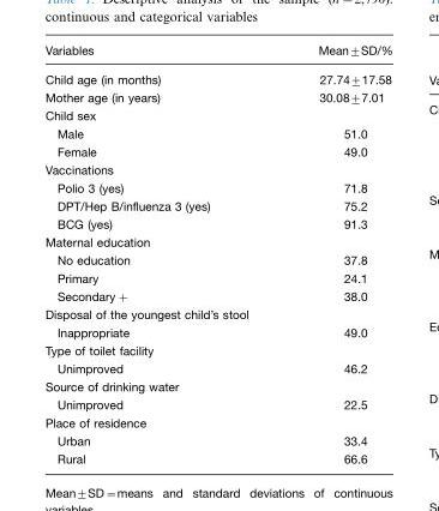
<table><thead><tr><td>Variables</td><td>Mean±SD/%</td></tr></thead><tbody><tr><td>Child age (in months)</td><td>27.74±17.58</td></tr><tr><td>Mother age (in years)</td><td>30.08±7.01</td></tr><tr><td colspan="2">Child sex</td></tr><tr><td>Male</td><td>51.0</td></tr><tr><td>Female</td><td>49.0</td></tr><tr><td colspan="2">Vaccinations</td></tr><tr><td>Polio 3 (yes)</td><td>71.8</td></tr><tr><td>DPT/Hep B/influenza 3 (yes)</td><td>75.2</td></tr><tr><td>BCG (yes)</td><td>91.3</td></tr><tr><td colspan="2">Maternal education</td></tr><tr><td>No education</td><td>37.8</td></tr><tr><td>Primary</td><td>24.1</td></tr><tr><td>Secondary+</td><td>38.0</td></tr><tr><td colspan="2">Disposal of the youngest child’s stool</td></tr><tr><td>Inappropriate</td><td>49.0</td></tr><tr><td colspan="2">Type of toilet facility</td></tr><tr><td>Unimproved</td><td>46.2</td></tr><tr><td colspan="2">Source of drinking water</td></tr><tr><td>Unimproved</td><td>22.5</td></tr><tr><td colspan="2">Place of residence</td></tr><tr><td>Urban</td><td>33.4</td></tr><tr><td>Rural</td><td>66.6</td></tr></tbody></table>